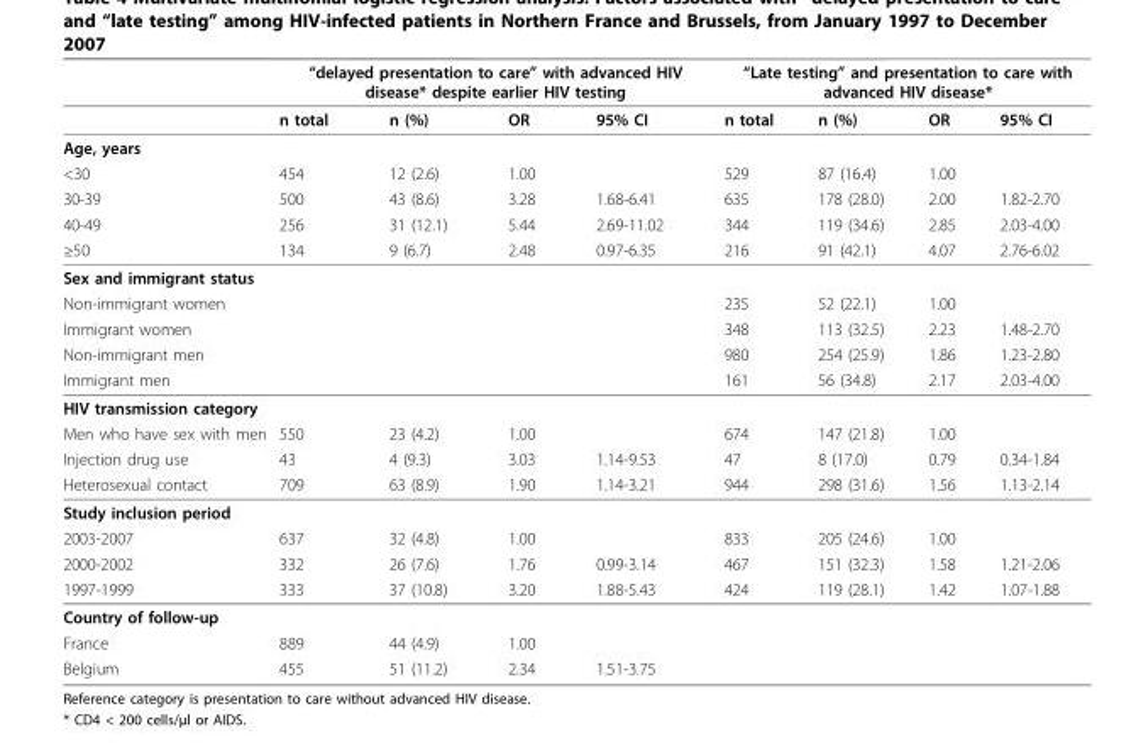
<table><thead><tr><td rowspan="2"></td><td colspan="4">“delayed presentation to care” with advanced HIV disease* despite earlier HIV testing</td><td colspan="4">“Late testing” and presentation to care with advanced HIV disease*</td></tr><tr><td>n total</td><td>n (%)</td><td>OR</td><td>95% CI</td><td>n total</td><td>n (%)</td><td>OR</td><td>95% CI</td></tr></thead><tbody><tr><td colspan="9">Age, years</td></tr><tr><td>&lt;30</td><td>454</td><td>12 (2.6)</td><td>1.00</td><td></td><td>529</td><td>87 (16.4)</td><td>1.00</td><td></td></tr><tr><td>30-39</td><td>500</td><td>43 (8.6)</td><td>3.28</td><td>1.68-6.41</td><td>635</td><td>178 (28.0)</td><td>2.00</td><td>1.82-2.70</td></tr><tr><td>40-49</td><td>256</td><td>31 (12.1)</td><td>5.44</td><td>2.69-11.02</td><td>344</td><td>119 (34.6)</td><td>2.85</td><td>2.03-4.00</td></tr><tr><td>≥50</td><td>134</td><td>9 (6.7)</td><td>2.48</td><td>0.97-6.35</td><td>216</td><td>91 (42.1)</td><td>4.07</td><td>2.76-6.02</td></tr><tr><td colspan="9">Sex and immigrant status</td></tr><tr><td>Non-immigrant women</td><td></td><td></td><td></td><td></td><td>235</td><td>52 (22.1)</td><td>1.00</td><td></td></tr><tr><td>Immigrant women</td><td></td><td></td><td></td><td></td><td>348</td><td>113 (32.5)</td><td>2.23</td><td>1.48-2.70</td></tr><tr><td>Non-immigrant men</td><td></td><td></td><td></td><td></td><td>980</td><td>254 (25.9)</td><td>1.86</td><td>1.23-2.80</td></tr><tr><td>Immigrant men</td><td></td><td></td><td></td><td></td><td>161</td><td>56 (34.8)</td><td>2.17</td><td>2.03-4.00</td></tr><tr><td colspan="9">HIV transmission category</td></tr><tr><td>Men who have sex with men</td><td>550</td><td>23 (4.2)</td><td>1.00</td><td></td><td>674</td><td>147 (21.8)</td><td>1.00</td><td></td></tr><tr><td>Injection drug use</td><td>43</td><td>4 (9.3)</td><td>3.03</td><td>1.14-9.53</td><td>47</td><td>8 (17.0)</td><td>0.79</td><td>0.34-1.84</td></tr><tr><td>Heterosexual contact</td><td>709</td><td>63 (8.9)</td><td>1.90</td><td>1.14-3.21</td><td>944</td><td>298 (31.6)</td><td>1.56</td><td>1.13-2.14</td></tr><tr><td colspan="9">Study inclusion period</td></tr><tr><td>2003-2007</td><td>637</td><td>32 (4.8)</td><td>1.00</td><td></td><td>833</td><td>205 (24.6)</td><td>1.00</td><td></td></tr><tr><td>2000-2002</td><td>332</td><td>26 (7.6)</td><td>1.76</td><td>0.99-3.14</td><td>467</td><td>151 (32.3)</td><td>1.58</td><td>1.21-2.06</td></tr><tr><td>1997-1999</td><td>333</td><td>37 (10.8)</td><td>3.20</td><td>1.88-5.43</td><td>424</td><td>119 (28.1)</td><td>1.42</td><td>1.07-1.88</td></tr><tr><td colspan="9">Country of follow-up</td></tr><tr><td>France</td><td>889</td><td>44 (4.9)</td><td>1.00</td><td></td><td></td><td></td><td></td><td></td></tr><tr><td>Belgium</td><td>455</td><td>51 (11.2)</td><td>2.34</td><td>1.51-3.75</td><td></td><td></td><td></td><td></td></tr></tbody></table>